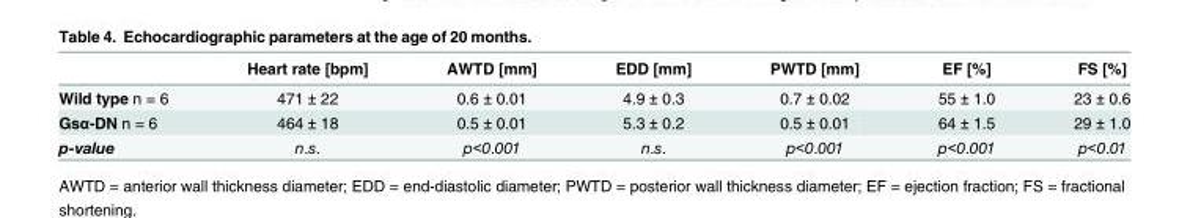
<table><thead><tr><td></td><td>Heart rate [bpm]</td><td>AWTD [mm]</td><td>EDD [mm]</td><td>PWTD [mm]</td><td>EF [%]</td><td>FS [%]</td></tr></thead><tbody><tr><td>Wild type n = 6</td><td>471 ± 22</td><td>0.6 ± 0.01</td><td>4.9 ± 0.3</td><td>0.7 ± 0.02</td><td>55 ± 1.0</td><td>23 ± 0.6</td></tr><tr><td>Gsα-DN n = 6</td><td>464 ± 18</td><td>0.5 ± 0.01</td><td>5.3 ± 0.2</td><td>0.5 ± 0.01</td><td>64 ± 1.5</td><td>29 ± 1.0</td></tr><tr><td>p-value</td><td>n.s.</td><td>p&lt;0.001</td><td>n.s.</td><td>p&lt;0.001</td><td>p&lt;0.001</td><td>p&lt;0.01</td></tr></tbody></table>